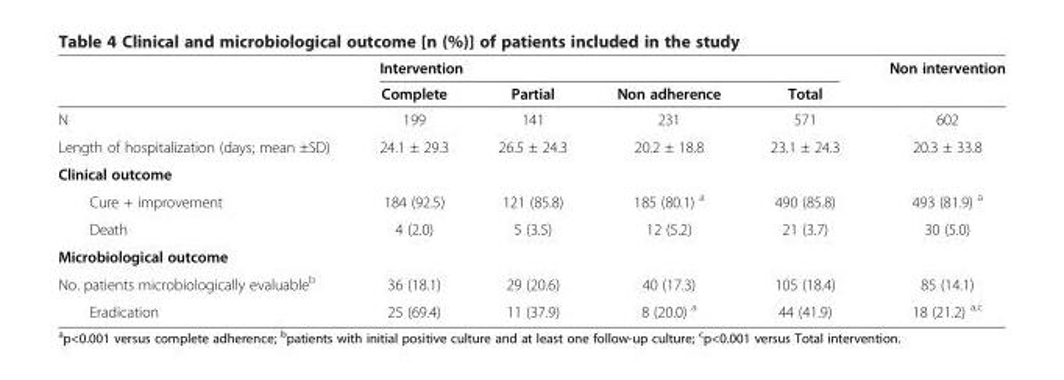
<table><thead><tr><td rowspan="2"></td><td colspan="4">Intervention</td><td rowspan="2">Non intervention</td></tr><tr><td>Complete</td><td>Partial</td><td>Non adherence</td><td>Total</td></tr></thead><tbody><tr><td>N</td><td>199</td><td>141</td><td>231</td><td>571</td><td>602</td></tr><tr><td>Length of hospitalization (days; mean ±SD)</td><td>24.1 ± 29.3</td><td>26.5 ± 24.3</td><td>20.2 ± 18.8</td><td>23.1 ± 24.3</td><td>20.3 ± 33.8</td></tr><tr><td colspan="6">Clinical outcome</td></tr><tr><td>Cure + improvement</td><td>184 (92.5)</td><td>121 (85.8)</td><td>185 (80.1) <sup>a</sup></td><td>490 (85.8)</td><td>493 (81.9) <sup>a</sup></td></tr><tr><td>Death</td><td>4 (2.0)</td><td>5 (3.5)</td><td>12 (5.2)</td><td>21 (3.7)</td><td>30 (5.0)</td></tr><tr><td colspan="6">Microbiological outcome</td></tr><tr><td>No. patients microbiologically evaluable<sup>b</sup></td><td>36 (18.1)</td><td>29 (20.6)</td><td>40 (17.3)</td><td>105 (18.4)</td><td>85 (14.1)</td></tr><tr><td>Eradication</td><td>25 (69.4)</td><td>11 (37.9)</td><td>8 (20.0) <sup>a</sup></td><td>44 (41.9)</td><td>18 (21.2) <sup>a,c</sup></td></tr></tbody></table>